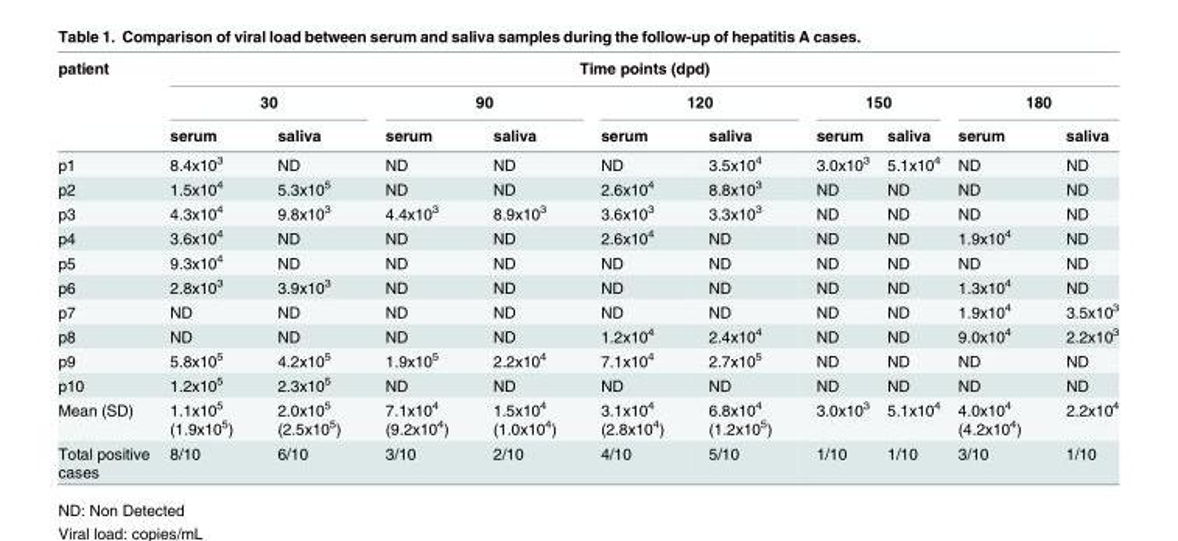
<table><thead><tr><td rowspan="3">patient</td><td colspan="10">Time points (dpd)</td></tr><tr><td colspan="2">30</td><td colspan="2">90</td><td colspan="2">120</td><td colspan="2">150</td><td colspan="2">180</td></tr><tr><td>serum</td><td>saliva</td><td>serum</td><td>saliva</td><td>serum</td><td>saliva</td><td>serum</td><td>saliva</td><td>serum</td><td>saliva</td></tr></thead><tbody><tr><td>p1</td><td>8.4x10<sup>3</sup></td><td>ND</td><td>ND</td><td>ND</td><td>ND</td><td>3.5x10<sup>4</sup></td><td>3.0x10<sup>3</sup></td><td>5.1x10<sup>4</sup></td><td>ND</td><td>ND</td></tr><tr><td>p2</td><td>1.5x10<sup>4</sup></td><td>5.3x10<sup>5</sup></td><td>ND</td><td>ND</td><td>2.6x10<sup>4</sup></td><td>8.8x10<sup>3</sup></td><td>ND</td><td>ND</td><td>ND</td><td>ND</td></tr><tr><td>p3</td><td>4.3x10<sup>4</sup></td><td>9.8x10<sup>3</sup></td><td>4.4x10<sup>3</sup></td><td>8.9x10<sup>3</sup></td><td>3.6x10<sup>3</sup></td><td>3.3x10<sup>3</sup></td><td>ND</td><td>ND</td><td>ND</td><td>ND</td></tr><tr><td>p4</td><td>3.6x10<sup>4</sup></td><td>ND</td><td>ND</td><td>ND</td><td>2.6x10<sup>4</sup></td><td>ND</td><td>ND</td><td>ND</td><td>1.9x10<sup>4</sup></td><td>ND</td></tr><tr><td>p5</td><td>9.3x10<sup>4</sup></td><td>ND</td><td>ND</td><td>ND</td><td>ND</td><td>ND</td><td>ND</td><td>ND</td><td>ND</td><td>ND</td></tr><tr><td>p6</td><td>2.8x10<sup>3</sup></td><td>3.9x10<sup>3</sup></td><td>ND</td><td>ND</td><td>ND</td><td>ND</td><td>ND</td><td>ND</td><td>1.3x10<sup>4</sup></td><td>ND</td></tr><tr><td>p7</td><td>ND</td><td>ND</td><td>ND</td><td>ND</td><td>ND</td><td>ND</td><td>ND</td><td>ND</td><td>1.9x10<sup>4</sup></td><td>3.5x10<sup>3</sup></td></tr><tr><td>p8</td><td>ND</td><td>ND</td><td>ND</td><td>ND</td><td>1.2x10<sup>4</sup></td><td>2.4x10<sup>4</sup></td><td>ND</td><td>ND</td><td>9.0x10<sup>4</sup></td><td>2.2x10<sup>3</sup></td></tr><tr><td>p9</td><td>5.8x10<sup>5</sup></td><td>4.2x10<sup>5</sup></td><td>1.9x10<sup>5</sup></td><td>2.2x10<sup>4</sup></td><td>7.1x10<sup>4</sup></td><td>2.7x10<sup>5</sup></td><td>ND</td><td>ND</td><td>ND</td><td>ND</td></tr><tr><td>p10</td><td>1.2x10<sup>5</sup></td><td>2.3x10<sup>5</sup></td><td>ND</td><td>ND</td><td>ND</td><td>ND</td><td>ND</td><td>ND</td><td>ND</td><td>ND</td></tr><tr><td>Mean (SD)</td><td>1.1x10<sup>5</sup> (1.9x10<sup>5</sup>)</td><td>2.0x10<sup>5</sup> (2.5x10<sup>5</sup>)</td><td>7.1x10<sup>4</sup> (9.2x10<sup>4</sup>)</td><td>1.5x10<sup>4</sup> (1.0x10<sup>4</sup>)</td><td>3.1x10<sup>4</sup> (2.8x10<sup>4</sup>)</td><td>6.8x10<sup>4</sup> (1.2x10<sup>5</sup>)</td><td>3.0x10<sup>3</sup></td><td>5.1x10<sup>4</sup></td><td>4.0x10<sup>4</sup> (4.2x10<sup>4</sup>)</td><td>2.2x10<sup>4</sup></td></tr><tr><td>Total positive cases</td><td>8/10</td><td>6/10</td><td>3/10</td><td>2/10</td><td>4/10</td><td>5/10</td><td>1/10</td><td>1/10</td><td>3/10</td><td>1/10</td></tr></tbody></table>